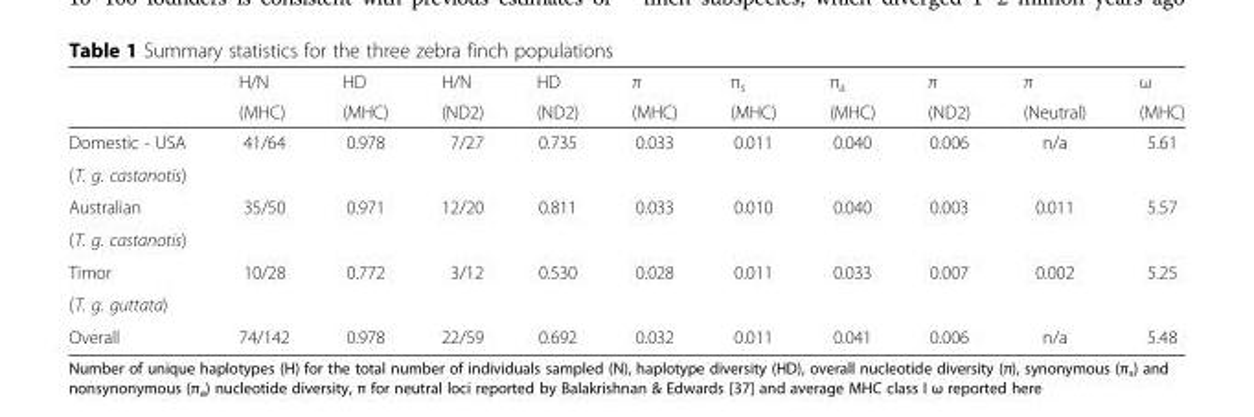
<table><thead><tr><td rowspan="2"></td><td rowspan="2">H/N (MHC)</td><td rowspan="2">HD (MHC)</td><td rowspan="2">H/N (ND2)</td><td rowspan="2">HD (ND2)</td><td rowspan="2">π (MHC)</td><td rowspan="2">π<sub>s</sub> (MHC)</td><td rowspan="2">π<sub>a</sub> (MHC)</td><td rowspan="2">π (ND2)</td><td rowspan="2">π (Neutral)</td><td rowspan="2">ω (MHC)</td></tr><tr></tr></thead><tbody><tr><td>Domestic - USA</td><td rowspan="2">41/64</td><td rowspan="2">0.978</td><td rowspan="2">7/27</td><td rowspan="2">0.735</td><td rowspan="2">0.033</td><td rowspan="2">0.011</td><td rowspan="2">0.040</td><td rowspan="2">0.006</td><td rowspan="2">n/a</td><td rowspan="2">5.61</td></tr><tr><td>(T. g. castanotis)</td></tr><tr><td>Australian</td><td rowspan="2">35/50</td><td rowspan="2">0.971</td><td rowspan="2">12/20</td><td rowspan="2">0.811</td><td rowspan="2">0.033</td><td rowspan="2">0.010</td><td rowspan="2">0.040</td><td rowspan="2">0.003</td><td rowspan="2">0.011</td><td rowspan="2">5.57</td></tr><tr><td>(T. g. castanotis)</td></tr><tr><td>Timor</td><td rowspan="2">10/28</td><td rowspan="2">0.772</td><td rowspan="2">3/12</td><td rowspan="2">0.530</td><td rowspan="2">0.028</td><td rowspan="2">0.011</td><td rowspan="2">0.033</td><td rowspan="2">0.007</td><td rowspan="2">0.002</td><td rowspan="2">5.25</td></tr><tr><td>(T. g. guttata)</td></tr><tr><td>Overall</td><td>74/142</td><td>0.978</td><td>22/59</td><td>0.692</td><td>0.032</td><td>0.011</td><td>0.041</td><td>0.006</td><td>n/a</td><td>5.48</td></tr></tbody></table>